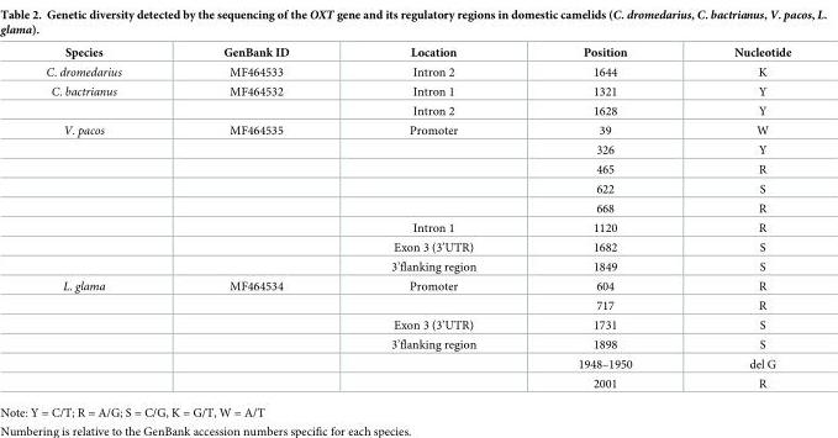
<table><thead><tr><td>Species</td><td>GenBank ID</td><td>Location</td><td>Position</td><td>Nucleotide</td></tr></thead><tbody><tr><td>C. dromedarius</td><td>MF464533</td><td>Intron 2</td><td>1644</td><td>K</td></tr><tr><td rowspan="2">C. bactrianus</td><td>MF464532</td><td>Intron 1</td><td>1321</td><td>Y</td></tr><tr><td></td><td>Intron 2</td><td>1628</td><td>Y</td></tr><tr><td rowspan="8">V. pacos</td><td>MF464535</td><td>Promoter</td><td>39</td><td>W</td></tr><tr><td></td><td></td><td>326</td><td>Y</td></tr><tr><td></td><td></td><td>465</td><td>R</td></tr><tr><td></td><td></td><td>622</td><td>S</td></tr><tr><td></td><td></td><td>668</td><td>R</td></tr><tr><td></td><td>Intron 1</td><td>1120</td><td>R</td></tr><tr><td></td><td>Exon 3 (3’UTR)</td><td>1682</td><td>S</td></tr><tr><td></td><td>3’flanking region</td><td>1849</td><td>S</td></tr><tr><td rowspan="6">L. glama</td><td>MF464534</td><td>Promoter</td><td>604</td><td>R</td></tr><tr><td></td><td></td><td>717</td><td>R</td></tr><tr><td></td><td>Exon 3 (3’UTR)</td><td>1731</td><td>S</td></tr><tr><td></td><td>3’flanking region</td><td>1898</td><td>S</td></tr><tr><td></td><td></td><td>1948–1950</td><td>del G</td></tr><tr><td></td><td></td><td>2001</td><td>R</td></tr></tbody></table>